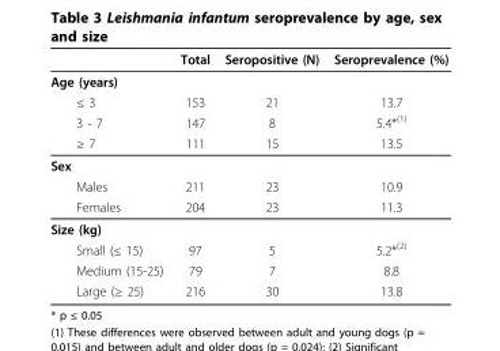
<table><thead><tr><td></td><td>Total</td><td>Seropositive (N)</td><td>Seroprevalence (%)</td></tr></thead><tbody><tr><td colspan="4">Age (years)</td></tr><tr><td>≤ 3</td><td>153</td><td>21</td><td>13.7</td></tr><tr><td>3 - 7</td><td>147</td><td>8</td><td>5.4*<sup>(1)</sup></td></tr><tr><td>≥ 7</td><td>111</td><td>15</td><td>13.5</td></tr><tr><td colspan="4">Sex</td></tr><tr><td>Males</td><td>211</td><td>23</td><td>10.9</td></tr><tr><td>Females</td><td>204</td><td>23</td><td>11.3</td></tr><tr><td colspan="4">Size (kg)</td></tr><tr><td>Small (≤ 15)</td><td>97</td><td>5</td><td>5.2*<sup>(2)</sup></td></tr><tr><td>Medium (15-25)</td><td>79</td><td>7</td><td>8.8</td></tr><tr><td>Large (≥ 25)</td><td>216</td><td>30</td><td>13.8</td></tr></tbody></table>